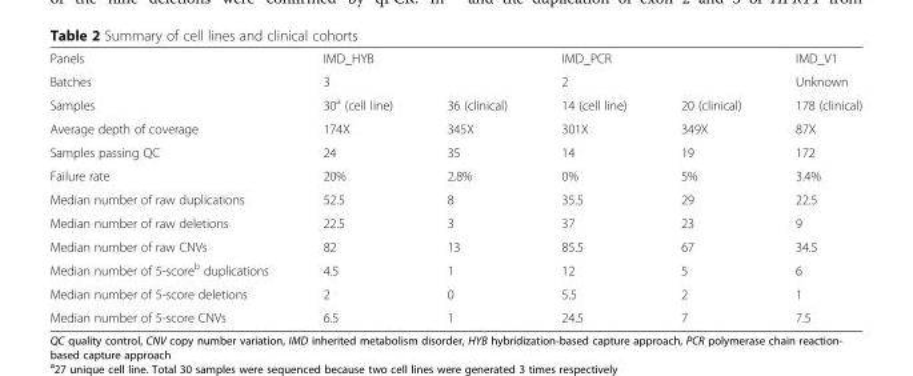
<table><tbody><tr><td>Panels</td><td colspan="2">IMD_HYB</td><td colspan="2">IMD_PCR</td><td>IMD_V1</td></tr><tr><td>Batches</td><td colspan="2">3</td><td colspan="2">2</td><td>Unknown</td></tr><tr><td>Samples</td><td>30<sup>a</sup> (cell line)</td><td>36 (clinical)</td><td>14 (cell line)</td><td>20 (clinical)</td><td>178 (clinical)</td></tr><tr><td>Average depth of coverage</td><td>174X</td><td>345X</td><td>301X</td><td>349X</td><td>87X</td></tr><tr><td>Samples passing QC</td><td>24</td><td>35</td><td>14</td><td>19</td><td>172</td></tr><tr><td>Failure rate</td><td>20%</td><td>2.8%</td><td>0%</td><td>5%</td><td>3.4%</td></tr><tr><td>Median number of raw duplications</td><td>52.5</td><td>8</td><td>35.5</td><td>29</td><td>22.5</td></tr><tr><td>Median number of raw deletions</td><td>22.5</td><td>3</td><td>37</td><td>23</td><td>9</td></tr><tr><td>Median number of raw CNVs</td><td>82</td><td>13</td><td>85.5</td><td>67</td><td>34.5</td></tr><tr><td>Median number of 5-score<sup>b</sup> duplications</td><td>4.5</td><td>1</td><td>12</td><td>5</td><td>6</td></tr><tr><td>Median number of 5-score deletions</td><td>2</td><td>0</td><td>5.5</td><td>2</td><td>1</td></tr><tr><td>Median number of 5-score CNVs</td><td>6.5</td><td>1</td><td>24.5</td><td>7</td><td>7.5</td></tr></tbody></table>